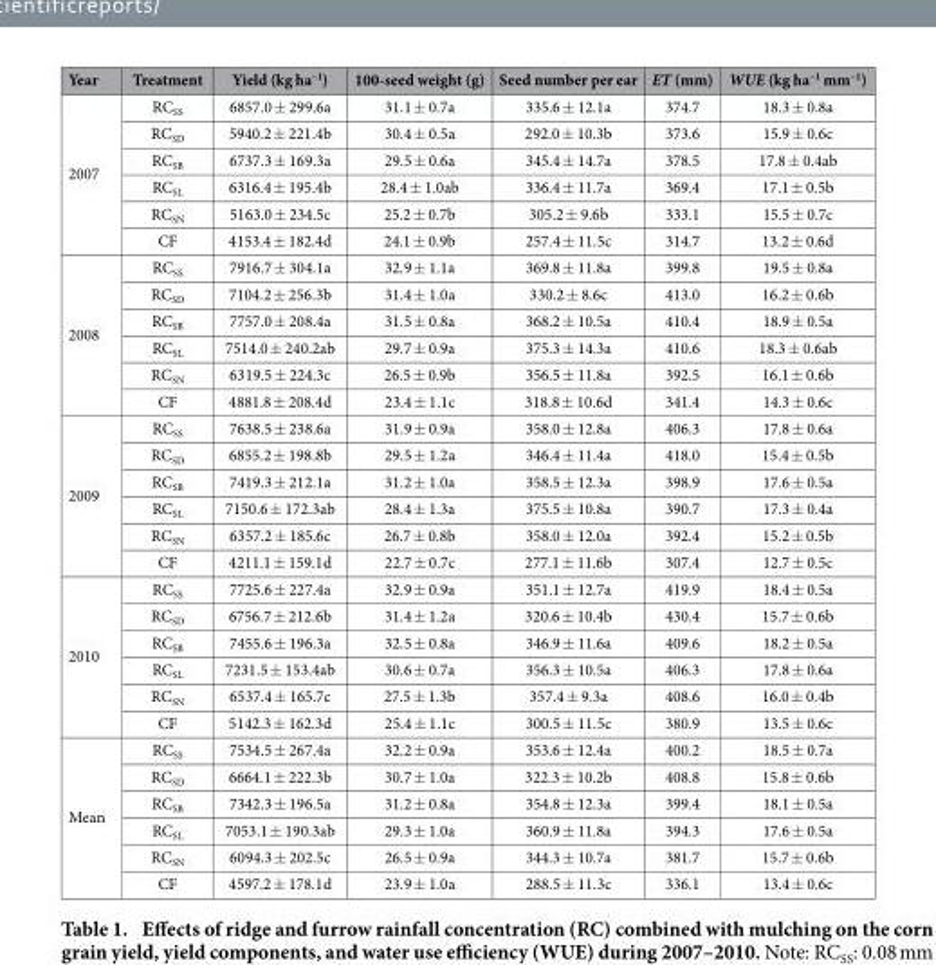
<table><thead><tr><td>Year</td><td>Treatment</td><td>Yield (kg ha<sup>–1</sup>)</td><td>100-seed weight (g)</td><td>Seed number per ear</td><td>ET (mm)</td><td>WUE (kg ha<sup>–1</sup> mm<sup>–1</sup>)</td></tr></thead><tbody><tr><td rowspan="6">2007</td><td>RC<sub>SS</sub></td><td>6857.0 ± 299.6a</td><td>31.1 ± 0.7a</td><td>335.6 ± 12.1a</td><td>374.7</td><td>18.3 ± 0.8a</td></tr><tr><td>RC<sub>SD</sub></td><td>5940.2 ± 221.4b</td><td>30.4 ± 0.5a</td><td>292.0 ± 10.3b</td><td>373.6</td><td>15.9 ± 0.6c</td></tr><tr><td>RC<sub>SB</sub></td><td>6737.3 ± 169.3a</td><td>29.5 ± 0.6a</td><td>345.4 ± 14.7a</td><td>378.5</td><td>17.8 ± 0.4ab</td></tr><tr><td>RC<sub>SL</sub></td><td>6316.4 ± 195.4b</td><td>28.4 ± 1.0ab</td><td>336.4 ± 11.7a</td><td>369.4</td><td>17.1 ± 0.5b</td></tr><tr><td>RC<sub>SN</sub></td><td>5163.0 ± 234.5c</td><td>25.2 ± 0.7b</td><td>305.2 ± 9.6b</td><td>333.1</td><td>15.5 ± 0.7c</td></tr><tr><td>CF</td><td>4153.4 ± 182.4d</td><td>24.1 ± 0.9b</td><td>257.4 ± 11.5c</td><td>314.7</td><td>13.2 ± 0.6d</td></tr><tr><td rowspan="6">2008</td><td>RC<sub>SS</sub></td><td>7916.7 ± 304.1a</td><td>32.9 ± 1.1a</td><td>369.8 ± 11.8a</td><td>399.8</td><td>19.5 ± 0.8a</td></tr><tr><td>RC<sub>SD</sub></td><td>7104.2 ± 256.3b</td><td>31.4 ± 1.0a</td><td>330.2 ± 8.6c</td><td>413.0</td><td>16.2 ± 0.6b</td></tr><tr><td>RC<sub>SB</sub></td><td>7757.0 ± 208.4a</td><td>31.5 ± 0.8a</td><td>368.2 ± 10.5a</td><td>410.4</td><td>18.9 ± 0.5a</td></tr><tr><td>RC<sub>SL</sub></td><td>7514.0 ± 240.2ab</td><td>29.7 ± 0.9a</td><td>375.3 ± 14.3a</td><td>410.6</td><td>18.3 ± 0.6ab</td></tr><tr><td>RC<sub>SN</sub></td><td>6319.5 ± 224.3c</td><td>26.5 ± 0.9b</td><td>356.5 ± 11.8a</td><td>392.5</td><td>16.1 ± 0.6b</td></tr><tr><td>CF</td><td>4881.8 ± 208.4d</td><td>23.4 ± 1.1c</td><td>318.8 ± 10.6d</td><td>341.4</td><td>14.3 ± 0.6c</td></tr><tr><td rowspan="6">2009</td><td>RC<sub>SS</sub></td><td>7638.5 ± 238.6a</td><td>31.9 ± 0.9a</td><td>358.0 ± 12.8a</td><td>406.3</td><td>17.8 ± 0.6a</td></tr><tr><td>RC<sub>SD</sub></td><td>6855.2 ± 198.8b</td><td>29.5 ± 1.2a</td><td>346.4 ± 11.4a</td><td>418.0</td><td>15.4 ± 0.5b</td></tr><tr><td>RC<sub>SB</sub></td><td>7419.3 ± 212.1a</td><td>31.2 ± 1.0a</td><td>358.5 ± 12.3a</td><td>398.9</td><td>17.6 ± 0.5a</td></tr><tr><td>RC<sub>SL</sub></td><td>7150.6 ± 172.3ab</td><td>28.4 ± 1.3a</td><td>375.5 ± 10.8a</td><td>390.7</td><td>17.3 ± 0.4a</td></tr><tr><td>RC<sub>SN</sub></td><td>6357.2 ± 185.6c</td><td>26.7 ± 0.8b</td><td>358.0 ± 12.0a</td><td>392.4</td><td>15.2 ± 0.5b</td></tr><tr><td>CF</td><td>4211.1 ± 159.1d</td><td>22.7 ± 0.7c</td><td>277.1 ± 11.6b</td><td>307.4</td><td>12.7 ± 0.5c</td></tr><tr><td rowspan="6">2010</td><td>RC<sub>SS</sub></td><td>7725.6 ± 227.4a</td><td>32.9 ± 0.9a</td><td>351.1 ± 12.7a</td><td>419.9</td><td>18.4 ± 0.5a</td></tr><tr><td>RC<sub>SD</sub></td><td>6756.7 ± 212.6b</td><td>31.4 ± 1.2a</td><td>320.6 ± 10.4b</td><td>430.4</td><td>15.7 ± 0.6b</td></tr><tr><td>RC<sub>SB</sub></td><td>7455.6 ± 196.3a</td><td>32.5 ± 0.8a</td><td>346.9 ± 11.6a</td><td>409.6</td><td>18.2 ± 0.5a</td></tr><tr><td>RC<sub>SL</sub></td><td>7231.5 ± 153.4ab</td><td>30.6 ± 0.7a</td><td>356.3 ± 10.5a</td><td>406.3</td><td>17.8 ± 0.6a</td></tr><tr><td>RC<sub>SN</sub></td><td>6537.4 ± 165.7c</td><td>27.5 ± 1.3b</td><td>357.4 ± 9.3a</td><td>408.6</td><td>16.0 ± 0.4b</td></tr><tr><td>CF</td><td>5142.3 ± 162.3d</td><td>25.4 ± 1.1c</td><td>300.5 ± 11.5c</td><td>380.9</td><td>13.5 ± 0.6c</td></tr><tr><td rowspan="6">Mean</td><td>RC<sub>SS</sub></td><td>7534.5 ± 267.4a</td><td>32.2 ± 0.9a</td><td>353.6 ± 12.4a</td><td>400.2</td><td>18.5 ± 0.7a</td></tr><tr><td>RC<sub>SD</sub></td><td>6664.1 ± 222.3b</td><td>30.7 ± 1.0a</td><td>322.3 ± 10.2b</td><td>408.8</td><td>15.8 ± 0.6b</td></tr><tr><td>RC<sub>SB</sub></td><td>7342.3 ± 196.5a</td><td>31.2 ± 0.8a</td><td>354.8 ± 12.3a</td><td>399.4</td><td>18.1 ± 0.5a</td></tr><tr><td>RC<sub>SL</sub></td><td>7053.1 ± 190.3ab</td><td>29.3 ± 1.0a</td><td>360.9 ± 11.8a</td><td>394.3</td><td>17.6 ± 0.5a</td></tr><tr><td>RC<sub>SN</sub></td><td>6094.3 ± 202.5c</td><td>26.5 ± 0.9a</td><td>344.3 ± 10.7a</td><td>381.7</td><td>15.7 ± 0.6b</td></tr><tr><td>CF</td><td>4597.2 ± 178.1d</td><td>23.9 ± 1.0a</td><td>288.5 ± 11.3c</td><td>336.1</td><td>13.4 ± 0.6c</td></tr></tbody></table>